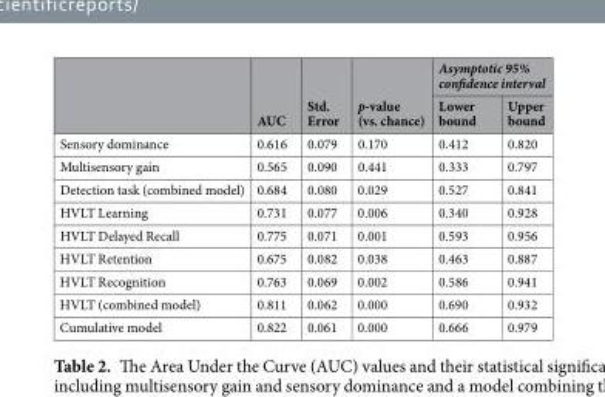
<table><thead><tr><td rowspan="2"></td><td rowspan="2">AUC</td><td rowspan="2">Std. Error</td><td rowspan="2">p-value (vs. chance)</td><td colspan="2">Asymptotic 95% confidence interval</td></tr><tr><td>Lower bound</td><td>Upper bound</td></tr></thead><tbody><tr><td>Sensory dominance</td><td>0.616</td><td>0.079</td><td>0.170</td><td>0.412</td><td>0.820</td></tr><tr><td>Multisensory gain</td><td>0.565</td><td>0.090</td><td>0.441</td><td>0.333</td><td>0.797</td></tr><tr><td>Detection task (combined model)</td><td>0.684</td><td>0.080</td><td>0.029</td><td>0.527</td><td>0.841</td></tr><tr><td>HVLT Learning</td><td>0.731</td><td>0.077</td><td>0.006</td><td>0.340</td><td>0.928</td></tr><tr><td>HVLT Delayed Recall</td><td>0.775</td><td>0.071</td><td>0.001</td><td>0.593</td><td>0.956</td></tr><tr><td>HVLT Retention</td><td>0.675</td><td>0.082</td><td>0.038</td><td>0.463</td><td>0.887</td></tr><tr><td>HVLT Recognition</td><td>0.763</td><td>0.069</td><td>0.002</td><td>0.586</td><td>0.941</td></tr><tr><td>HVLT (combined model)</td><td>0.811</td><td>0.062</td><td>0.000</td><td>0.690</td><td>0.932</td></tr><tr><td>Cumulative model</td><td>0.822</td><td>0.061</td><td>0.000</td><td>0.666</td><td>0.979</td></tr></tbody></table>